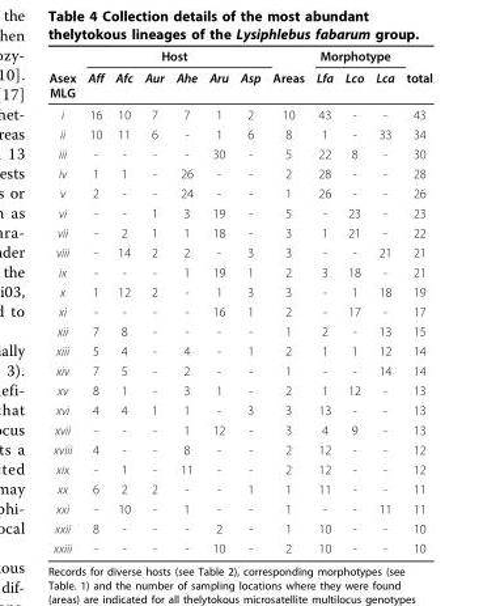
<table><thead><tr><td rowspan="2">Asex MLG</td><td colspan="6">Host</td><td rowspan="2">Areas</td><td colspan="3">Morphotype</td><td rowspan="2">total</td></tr><tr><td>Aff</td><td>Afc</td><td>Aur</td><td>Ahe</td><td>Aru</td><td>Asp</td><td>Lfa</td><td>Lco</td><td>Lca</td></tr></thead><tbody><tr><td>i</td><td>16</td><td>10</td><td>7</td><td>7</td><td>1</td><td>2</td><td>10</td><td>43</td><td>-</td><td>-</td><td>43</td></tr><tr><td>ii</td><td>10</td><td>11</td><td>6</td><td>-</td><td>1</td><td>6</td><td>8</td><td>1</td><td>-</td><td>33</td><td>34</td></tr><tr><td>iii</td><td>-</td><td>-</td><td>-</td><td>-</td><td>30</td><td>-</td><td>5</td><td>22</td><td>8</td><td>-</td><td>30</td></tr><tr><td>iv</td><td>1</td><td>1</td><td>-</td><td>26</td><td>-</td><td>-</td><td>2</td><td>28</td><td>-</td><td>-</td><td>28</td></tr><tr><td>v</td><td>2</td><td>-</td><td>-</td><td>24</td><td>-</td><td>-</td><td>1</td><td>26</td><td>-</td><td>-</td><td>26</td></tr><tr><td>vi</td><td>-</td><td>-</td><td>1</td><td>3</td><td>19</td><td>-</td><td>5</td><td>-</td><td>23</td><td>-</td><td>23</td></tr><tr><td>vii</td><td>-</td><td>2</td><td>1</td><td>1</td><td>18</td><td>-</td><td>3</td><td>1</td><td>21</td><td>-</td><td>22</td></tr><tr><td>viii</td><td>-</td><td>14</td><td>2</td><td>2</td><td>-</td><td>3</td><td>3</td><td>-</td><td>-</td><td>21</td><td>21</td></tr><tr><td>ix</td><td>-</td><td>-</td><td>-</td><td>1</td><td>19</td><td>1</td><td>2</td><td>3</td><td>18</td><td>-</td><td>21</td></tr><tr><td>x</td><td>1</td><td>12</td><td>2</td><td>-</td><td>1</td><td>3</td><td>3</td><td>-</td><td>1</td><td>18</td><td>19</td></tr><tr><td>xi</td><td>-</td><td>-</td><td>-</td><td>-</td><td>16</td><td>1</td><td>2</td><td>-</td><td>17</td><td>-</td><td>17</td></tr><tr><td>xii</td><td>7</td><td>8</td><td>-</td><td>-</td><td>-</td><td>-</td><td>1</td><td>2</td><td>-</td><td>13</td><td>15</td></tr><tr><td>xiii</td><td>5</td><td>4</td><td>-</td><td>4</td><td>-</td><td>1</td><td>2</td><td>1</td><td>1</td><td>12</td><td>14</td></tr><tr><td>xiv</td><td>7</td><td>5</td><td>-</td><td>2</td><td>-</td><td>-</td><td>1</td><td>-</td><td>-</td><td>14</td><td>14</td></tr><tr><td>xv</td><td>8</td><td>1</td><td>-</td><td>3</td><td>1</td><td>-</td><td>2</td><td>1</td><td>12</td><td>-</td><td>13</td></tr><tr><td>xvi</td><td>4</td><td>4</td><td>1</td><td>1</td><td>-</td><td>3</td><td>3</td><td>13</td><td>-</td><td>-</td><td>13</td></tr><tr><td>xvii</td><td>-</td><td>-</td><td>-</td><td>1</td><td>12</td><td>-</td><td>3</td><td>4</td><td>9</td><td>-</td><td>13</td></tr><tr><td>xviii</td><td>4</td><td>-</td><td>-</td><td>8</td><td>-</td><td>-</td><td>2</td><td>12</td><td>-</td><td>-</td><td>12</td></tr><tr><td>xix</td><td>-</td><td>1</td><td>-</td><td>11</td><td>-</td><td>-</td><td>2</td><td>12</td><td>-</td><td>-</td><td>12</td></tr><tr><td>xx</td><td>6</td><td>2</td><td>2</td><td>-</td><td>-</td><td>1</td><td>1</td><td>11</td><td>-</td><td>-</td><td>11</td></tr><tr><td>xxi</td><td>-</td><td>10</td><td>-</td><td>1</td><td>-</td><td>-</td><td>1</td><td>-</td><td>-</td><td>11</td><td>11</td></tr><tr><td>xxii</td><td>8</td><td>-</td><td>-</td><td>-</td><td>2</td><td>-</td><td>1</td><td>10</td><td>-</td><td>-</td><td>10</td></tr><tr><td>xxiii</td><td>-</td><td>-</td><td>-</td><td>-</td><td>10</td><td>-</td><td>2</td><td>10</td><td>-</td><td>-</td><td>10</td></tr></tbody></table>